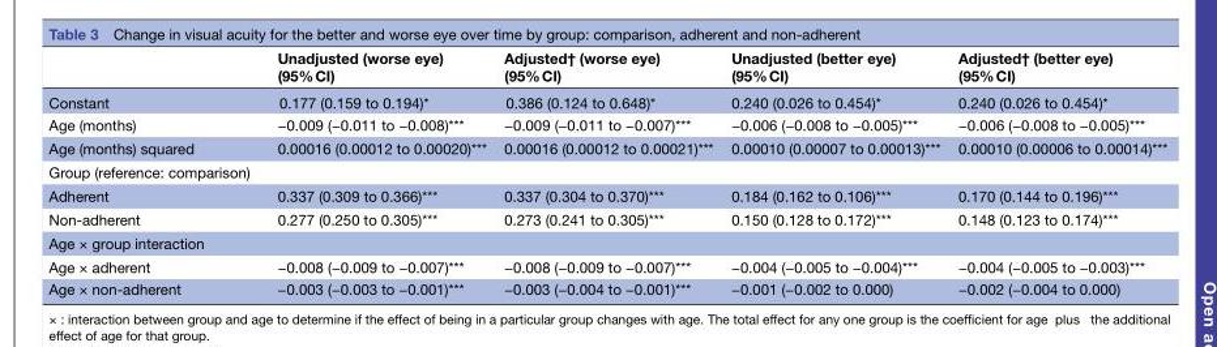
<table><thead><tr><td></td><td>Unadjusted (worse eye) (95% CI)</td><td>Adjusted† (worse eye) (95% CI)</td><td>Unadjusted (better eye) (95% CI)</td><td>Adjusted† (better eye) (95% CI)</td></tr></thead><tbody><tr><td>Constant</td><td>0.177 (0.159 to 0.194)*</td><td>0.386 (0.124 to 0.648)*</td><td>0.240 (0.026 to 0.454)*</td><td>0.240 (0.026 to 0.454)*</td></tr><tr><td>Age (months)</td><td>−0.009 (−0.011 to −0.008)***</td><td>−0.009 (−0.011 to −0.007)***</td><td>−0.006 (−0.008 to −0.005)***</td><td>−0.006 (−0.008 to −0.005)***</td></tr><tr><td>Age (months) squared</td><td>0.00016 (0.00012 to 0.00020)***</td><td>0.00016 (0.00012 to 0.00021)***</td><td>0.00010 (0.00007 to 0.00013)***</td><td>0.00010 (0.00006 to 0.00014)***</td></tr><tr><td colspan="5">Group (reference: comparison)</td></tr><tr><td>Adherent</td><td>0.337 (0.309 to 0.366)***</td><td>0.337 (0.304 to 0.370)***</td><td>0.184 (0.162 to 0.106)***</td><td>0.170 (0.144 to 0.196)***</td></tr><tr><td>Non-adherent</td><td>0.277 (0.250 to 0.305)***</td><td>0.273 (0.241 to 0.305)***</td><td>0.150 (0.128 to 0.172)***</td><td>0.148 (0.123 to 0.174)***</td></tr><tr><td colspan="5">Age × group interaction</td></tr><tr><td>Age × adherent</td><td>−0.008 (−0.009 to −0.007)***</td><td>−0.008 (−0.009 to −0.007)***</td><td>−0.004 (−0.005 to −0.004)***</td><td>−0.004 (−0.005 to −0.003)***</td></tr><tr><td>Age × non-adherent</td><td>−0.003 (−0.003 to −0.001)***</td><td>−0.003 (−0.004 to −0.001)***</td><td>−0.001 (−0.002 to 0.000)</td><td>−0.002 (−0.004 to 0.000)</td></tr></tbody></table>